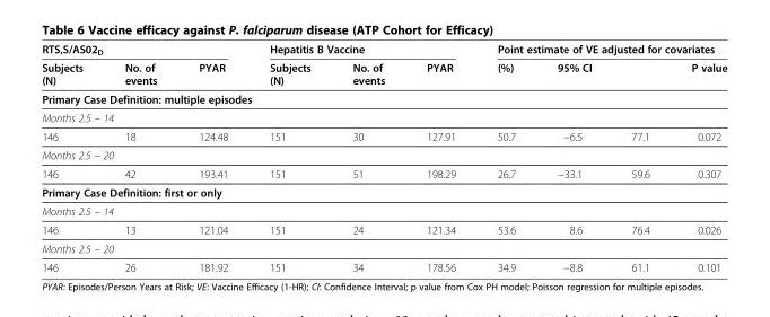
<table><thead><tr><td colspan="3">RTS,S/AS02<sub>D</sub></td><td colspan="3">Hepatitis B Vaccine</td><td colspan="4">Point estimate of VE adjusted for covariates</td></tr><tr><td>Subjects (N)</td><td>No. of events</td><td>PYAR</td><td>Subjects (N)</td><td>No. of events</td><td>PYAR</td><td>(%)</td><td>95% CI</td><td></td><td>P value</td></tr></thead><tbody><tr><td colspan="10">Primary Case Definition: multiple episodes</td></tr><tr><td colspan="10">Months 2.5 – 14</td></tr><tr><td>146</td><td>18</td><td>124.48</td><td>151</td><td>30</td><td>127.91</td><td>50.7</td><td>−6.5</td><td>77.1</td><td>0.072</td></tr><tr><td colspan="10">Months 2.5 – 20</td></tr><tr><td>146</td><td>42</td><td>193.41</td><td>151</td><td>51</td><td>198.29</td><td>26.7</td><td>−33.1</td><td>59.6</td><td>0.307</td></tr><tr><td colspan="10">Primary Case Definition: first or only</td></tr><tr><td colspan="10">Months 2.5 – 14</td></tr><tr><td>146</td><td>13</td><td>121.04</td><td>151</td><td>24</td><td>121.34</td><td>53.6</td><td>8.6</td><td>76.4</td><td>0.026</td></tr><tr><td colspan="10">Months 2.5 – 20</td></tr><tr><td>146</td><td>26</td><td>181.92</td><td>151</td><td>34</td><td>178.56</td><td>34.9</td><td>−8.8</td><td>61.1</td><td>0.101</td></tr></tbody></table>